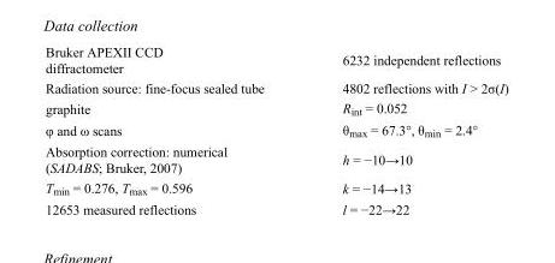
<table><tbody><tr><td>Bruker APEXII CCD diffractometer</td><td>6232 independent reflections</td></tr><tr><td>Radiation source: fine-focus sealed tube</td><td>4802 reflections with I &gt; 2σ(I)</td></tr><tr><td>graphite</td><td>R<sub>int</sub> = 0.052</td></tr><tr><td>φ and ω scans</td><td>θ<sub>max</sub> = 67.3°, θ<sub>min</sub> = 2.4°</td></tr><tr><td>Absorption correction: numerical (SADABS; Bruker, 2007)</td><td>h = −10→10</td></tr><tr><td>T<sub>min</sub> = 0.276, T<sub>max</sub> = 0.596</td><td>k = −14→13</td></tr><tr><td>12653 measured reflections</td><td>l = −22→22</td></tr></tbody></table>